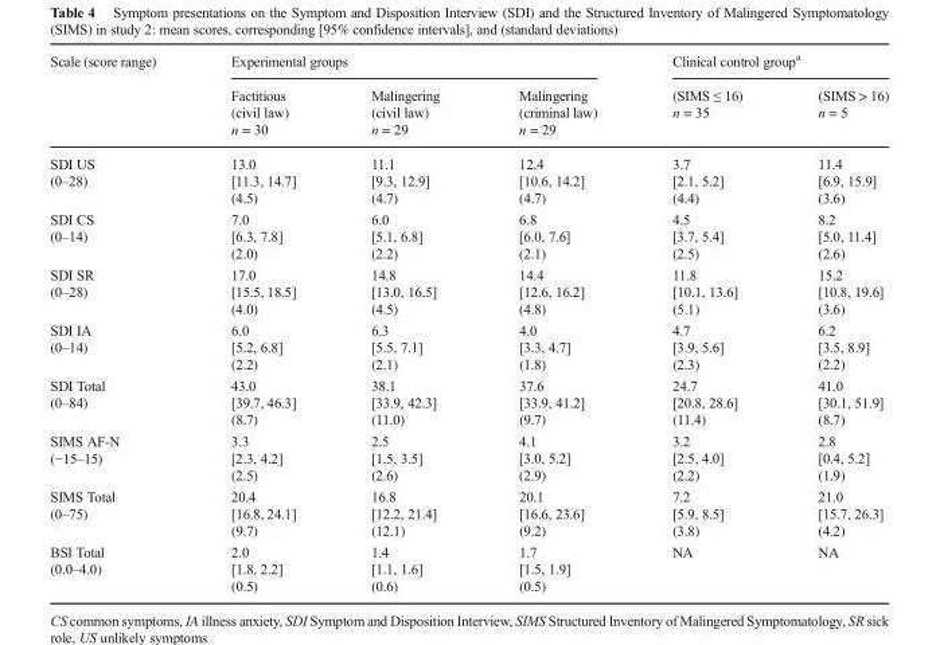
<table><thead><tr><td rowspan="2">Scale (score range)</td><td colspan="3">Experimental groups</td><td colspan="2">Clinical control group<sup>a</sup></td></tr><tr><td>Factitious (civil law) n = 30</td><td>Malingering (civil law) n = 29</td><td>Malingering (criminal law) n = 29</td><td>(SIMS ≤ 16) n = 35</td><td>(SIMS &gt; 16) n = 5</td></tr></thead><tbody><tr><td>SDI US (0–28)</td><td>13.0 [11.3, 14.7] (4.5)</td><td>11.1 [9.3, 12.9] (4.7)</td><td>12.4 [10.6, 14.2] (4.7)</td><td>3.7 [2.1, 5.2] (4.4)</td><td>11.4 [6.9, 15.9] (3.6)</td></tr><tr><td>SDI CS (0–14)</td><td>7.0 [6.3, 7.8] (2.0)</td><td>6.0 [5.1, 6.8] (2.2)</td><td>6.8 [6.0, 7.6] (2.1)</td><td>4.5 [3.7, 5.4] (2.5)</td><td>8.2 [5.0, 11.4] (2.6)</td></tr><tr><td>SDI SR (0–28)</td><td>17.0 [15.5, 18.5] (4.0)</td><td>14.8 [13.0, 16.5] (4.5)</td><td>14.4 [12.6, 16.2] (4.8)</td><td>11.8 [10.1, 13.6] (5.1)</td><td>15.2 [10.8, 19.6] (3.6)</td></tr><tr><td>SDI IA (0–14)</td><td>6.0 [5.2, 6.8] (2.2)</td><td>6.3 [5.5, 7.1] (2.1)</td><td>4.0 [3.3, 4.7] (1.8)</td><td>4.7 [3.9, 5.6] (2.3)</td><td>6.2 [3.5, 8.9] (2.2)</td></tr><tr><td>SDI Total (0–84)</td><td>43.0 [39.7, 46.3] (8.7)</td><td>38.1 [33.9, 42.3] (11.0)</td><td>37.6 [33.9, 41.2] (9.7)</td><td>24.7 [20.8, 28.6] (11.4)</td><td>41.0 [30.1, 51.9] (8.7)</td></tr><tr><td>SIMS AF-N (−15–15)</td><td>3.3 [2.3, 4.2] (2.5)</td><td>2.5 [1.5, 3.5] (2.6)</td><td>4.1 [3.0, 5.2] (2.9)</td><td>3.2 [2.5, 4.0] (2.2)</td><td>2.8 [0.4, 5.2] (1.9)</td></tr><tr><td>SIMS Total (0–75)</td><td>20.4 [16.8, 24.1] (9.7)</td><td>16.8 [12.2, 21.4] (12.1)</td><td>20.1 [16.6, 23.6] (9.2)</td><td>7.2 [5.9, 8.5] (3.8)</td><td>21.0 [15.7, 26.3] (4.2)</td></tr><tr><td>BSI Total (0.0–4.0)</td><td>2.0 [1.8, 2.2] (0.5)</td><td>1.4 [1.1, 1.6] (0.6)</td><td>1.7 [1.5, 1.9] (0.5)</td><td>NA</td><td>NA</td></tr></tbody></table>